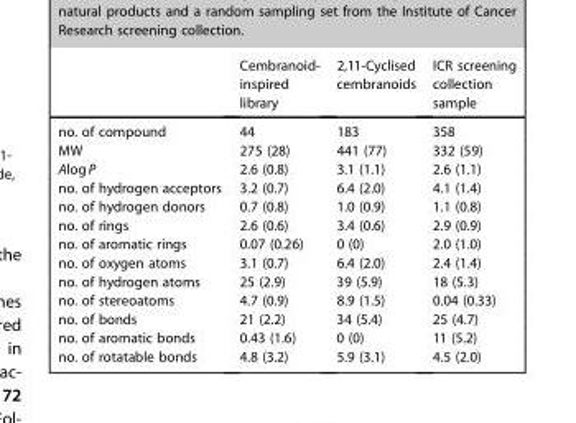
<table><thead><tr><td></td><td>Cembranoid- inspired library</td><td>2,11-Cyclised cembranoids</td><td>ICR screening collection sample</td></tr></thead><tbody><tr><td>no. of compound</td><td>44</td><td>183</td><td>358</td></tr><tr><td>MW</td><td>275 (28)</td><td>441 (77)</td><td>332 (59)</td></tr><tr><td>AlogP</td><td>2.6 (0.8)</td><td>3.1 (1.1)</td><td>2.6 (1.1)</td></tr><tr><td>no. of hydrogen acceptors</td><td>3.2 (0.7)</td><td>6.4 (2.0)</td><td>4.1 (1.4)</td></tr><tr><td>no. of hydrogen donors</td><td>0.7 (0.8)</td><td>1.0 (0.9)</td><td>1.1 (0.8)</td></tr><tr><td>no. of rings</td><td>2.6 (0.6)</td><td>3.4 (0.6)</td><td>2.9 (0.9)</td></tr><tr><td>no. of aromatic rings</td><td>0.07 (0.26)</td><td>0 (0)</td><td>2.0 (1.0)</td></tr><tr><td>no. of oxygen atoms</td><td>3.1 (0.7)</td><td>6.4 (2.0)</td><td>2.4 (1.4)</td></tr><tr><td>no. of hydrogen atoms</td><td>25 (2.9)</td><td>39 (5.9)</td><td>18 (5.3)</td></tr><tr><td>no. of stereoatoms</td><td>4.7 (0.9)</td><td>8.9 (1.5)</td><td>0.04 (0.33)</td></tr><tr><td>no. of bonds</td><td>21 (2.2)</td><td>34 (5.4)</td><td>25 (4.7)</td></tr><tr><td>no. of aromatic bonds</td><td>0.43 (1.6)</td><td>0 (0)</td><td>11 (5.2)</td></tr><tr><td>no. of rotatable bonds</td><td>4.8 (3.2)</td><td>5.9 (3.1)</td><td>4.5 (2.0)</td></tr></tbody></table>